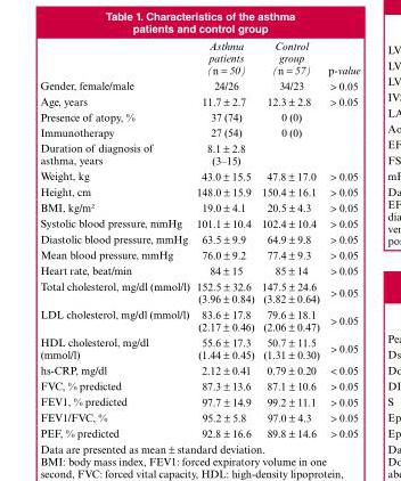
<table><thead><tr><td></td><td>Asthma patients (n = 50)</td><td>Control group (n = 57)</td><td>p-value</td></tr></thead><tbody><tr><td>Gender, female/male</td><td>24/26</td><td>34/23</td><td>&gt; 0.05</td></tr><tr><td>Age, years</td><td>11.7 ± 2.7</td><td>12.3 ± 2.8</td><td>&gt; 0.05</td></tr><tr><td>Presence of atopy, %</td><td>37 (74)</td><td>0 (0)</td><td></td></tr><tr><td>Immunotherapy</td><td>27 (54)</td><td>0 (0)</td><td></td></tr><tr><td>Duration of diagnosis of asthma, years</td><td>8.1 ± 2.8 (3–15)</td><td></td><td></td></tr><tr><td>Weight, kg</td><td>43.0 ± 15.5</td><td>47.8 ± 17.0</td><td>&gt; 0.05</td></tr><tr><td>Height, cm</td><td>148.0 ± 15.9</td><td>150.4 ± 16.1</td><td>&gt; 0.05</td></tr><tr><td>BMI, kg/m²</td><td>19.0 ± 4.1</td><td>20.5 ± 4.3</td><td>&gt; 0.05</td></tr><tr><td>Systolic blood pressure, mmHg</td><td>101.1 ± 10.4</td><td>102.4 ± 10.4</td><td>&gt; 0.05</td></tr><tr><td>Diastolic blood pressure, mmHg</td><td>63.5 ± 9.9</td><td>64.9 ± 9.8</td><td>&gt; 0.05</td></tr><tr><td>Mean blood pressure, mmHg</td><td>76.0 ± 9.2</td><td>77.4 ± 9.3</td><td>&gt; 0.05</td></tr><tr><td>Heart rate, beat/min</td><td>84 ± 15</td><td>85 ± 14</td><td>&gt; 0.05</td></tr><tr><td>Total cholesterol, mg/dl (mmol/l)</td><td>152.5 ± 32.6 (3.96 ± 0.84)</td><td>147.5 ± 24.6 (3.82 ± 0.64)</td><td>&gt; 0.05</td></tr><tr><td>LDL cholesterol, mg/dl (mmol/l)</td><td>83.6 ± 17.8 (2.17 ± 0.46)</td><td>79.6 ± 18.1 (2.06 ± 0.47)</td><td>&gt; 0.05</td></tr><tr><td>HDL cholesterol, mg/dl (mmol/l)</td><td>55.6 ± 17.3 (1.44 ± 0.45)</td><td>50.7 ± 11.5 (1.31 ± 0.30)</td><td>&gt; 0.05</td></tr><tr><td>hs-CRP, mg/dl</td><td>2.12 ± 0.41</td><td>0.79 ± 0.20</td><td>&lt; 0.05</td></tr><tr><td>FVC, % predicted</td><td>87.3 ± 13.6</td><td>87.1 ± 10.6</td><td>&gt; 0.05</td></tr><tr><td>FEV1, % predicted</td><td>97.7 ± 14.9</td><td>99.2 ± 11.1</td><td>&gt; 0.05</td></tr><tr><td>FEV1/FVC, %</td><td>95.2 ± 5.8</td><td>97.0 ± 4.3</td><td>&gt; 0.05</td></tr><tr><td>PEF, % predicted</td><td>92.8 ± 16.6</td><td>89.8 ± 14.6</td><td>&gt; 0.05</td></tr></tbody></table>